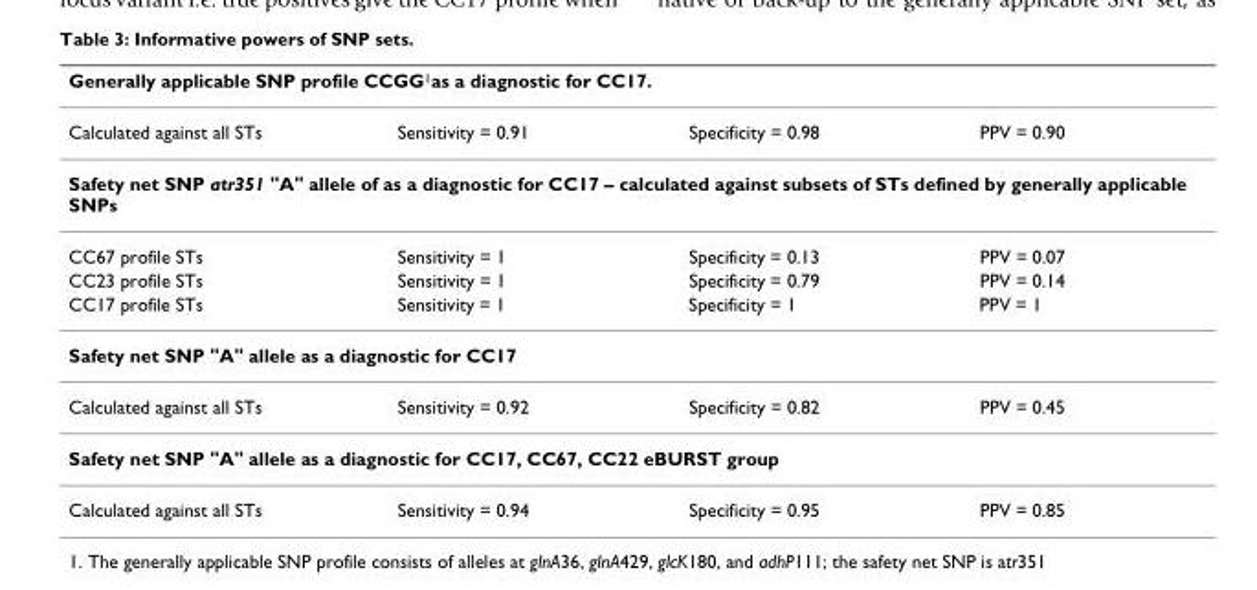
<table><thead><tr><td colspan="4">Generally applicable SNP profile CCGG<sup>1</sup>as a diagnostic for CC17.</td></tr><tr><td>Calculated against all STs</td><td>Sensitivity = 0.91</td><td>Specificity = 0.98</td><td>PPV = 0.90</td></tr></thead><tbody><tr><td colspan="4">Safety net SNP atr351 &quot;A&quot; allele of as a diagnostic for CC17 – calculated against subsets of STs defined by generally applicable SNPs</td></tr><tr><td>CC67 profile STs</td><td>Sensitivity = 1</td><td>Specificity = 0.13</td><td>PPV = 0.07</td></tr><tr><td>CC23 profile STs</td><td>Sensitivity = 1</td><td>Specificity = 0.79</td><td>PPV = 0.14</td></tr><tr><td>CC17 profile STs</td><td>Sensitivity = 1</td><td>Specificity = 1</td><td>PPV = 1</td></tr><tr><td colspan="4">Safety net SNP &quot;A&quot; allele as a diagnostic for CC17</td></tr><tr><td>Calculated against all STs</td><td>Sensitivity = 0.92</td><td>Specificity = 0.82</td><td>PPV = 0.45</td></tr><tr><td colspan="4">Safety net SNP &quot;A&quot; allele as a diagnostic for CC17, CC67, CC22 eBURST group</td></tr><tr><td>Calculated against all STs</td><td>Sensitivity = 0.94</td><td>Specificity = 0.95</td><td>PPV = 0.85</td></tr></tbody></table>